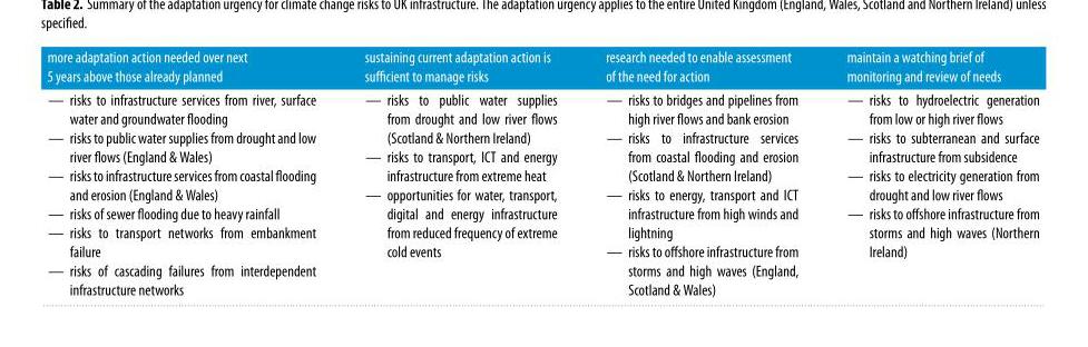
<table><thead><tr><td>more adaptation action needed over next 5 years above those already planned</td><td>sustaining current adaptation action is sufficient to manage risks</td><td>research needed to enable assessment of the need for action</td><td>maintain a watching brief of monitoring and review of needs</td></tr></thead><tbody><tr><td>— risks to infrastructure services from river, surface water and groundwater flooding — riskstopublicwatersuppliesfromdroughtandlow river flows (England &amp; Wales) — riskstoinfrastructureservicesfromcoastalflooding and erosion (England &amp; Wales) — risks of sewer flooding due to heavy rainfall — risks to transport networks from embankment failure — risks of cascading failures from interdependent infrastructure networks</td><td>— risks to public water supplies from drought and low river flows (Scotland &amp; Northern Ireland) — risks to transport, ICT and energy infrastructure from extreme heat — opportunities for water, transport, digital and energy infrastructure from reduced frequency of extreme cold events</td><td>— risks to bridges and pipelines from high river flows and bank erosion — risks to infrastructure services from coastal flooding and erosion (Scotland &amp; Northern Ireland) — risks to energy, transport and ICT infrastructure from high winds and lightning — risks to offshore infrastructure from storms and high waves (England, Scotland &amp; Wales)</td><td>— risks to hydroelectric generation from low or high river flows — risks to subterranean and surface infrastructure from subsidence — risks to electricity generation from drought and low river flows — risks to offshore infrastructure from storms and high waves (Northern Ireland)</td></tr></tbody></table>